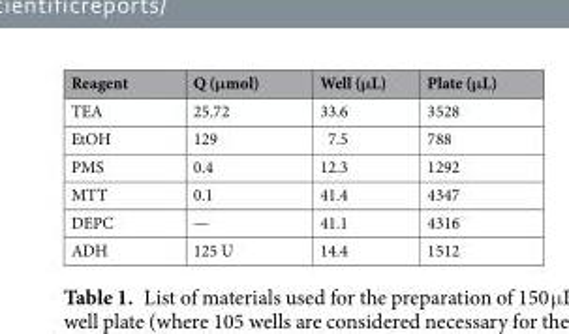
<table><thead><tr><td>Reagent</td><td>Q (μmol)</td><td>Well (μL)</td><td>Plate (μL)</td></tr></thead><tbody><tr><td>TEA</td><td>25.72</td><td>33.6</td><td>3528</td></tr><tr><td>EtOH</td><td>129</td><td>7.5</td><td>788</td></tr><tr><td>PMS</td><td>0.4</td><td>12.3</td><td>1292</td></tr><tr><td>MTT</td><td>0.1</td><td>41.4</td><td>4347</td></tr><tr><td>DEPC</td><td>—</td><td>41.1</td><td>4316</td></tr><tr><td>ADH</td><td>125 U</td><td>14.4</td><td>1512</td></tr></tbody></table>